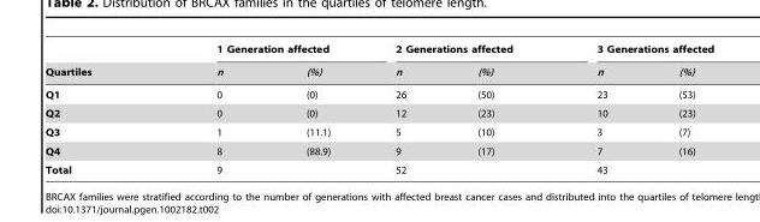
<table><thead><tr><td rowspan="2">Quartiles</td><td colspan="2">1 Generation affected</td><td colspan="2">2 Generations affected</td><td colspan="2">3 Generations affected</td></tr><tr><td>n</td><td>(%)</td><td>n</td><td>(%)</td><td>n</td><td>(%)</td></tr></thead><tbody><tr><td>Q1</td><td>0</td><td>(0)</td><td>26</td><td>(50)</td><td>23</td><td>(53)</td></tr><tr><td>Q2</td><td>0</td><td>(0)</td><td>12</td><td>(23)</td><td>10</td><td>(23)</td></tr><tr><td>Q3</td><td>1</td><td>(11.1)</td><td>5</td><td>(10)</td><td>3</td><td>(7)</td></tr><tr><td>Q4</td><td>8</td><td>(88.9)</td><td>9</td><td>(17)</td><td>7</td><td>(16)</td></tr><tr><td>Total</td><td>9</td><td></td><td>52</td><td></td><td>43</td><td></td></tr></tbody></table>